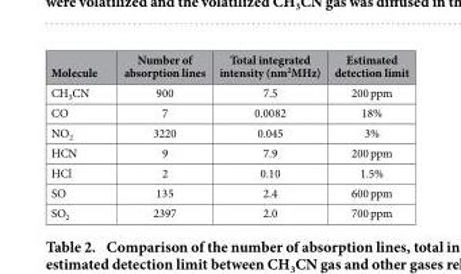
<table><thead><tr><td>Molecule</td><td>Number of absorption lines</td><td>Total integrated intensity (nm<sup>2</sup>MHz)</td><td>Estimated detection limit</td></tr></thead><tbody><tr><td>CH<sub>3</sub>CN</td><td>900</td><td>7.5</td><td>200 ppm</td></tr><tr><td>CO</td><td>7</td><td>0.0082</td><td>18%</td></tr><tr><td>NO<sub>2</sub></td><td>3220</td><td>0.045</td><td>3%</td></tr><tr><td>HCN</td><td>9</td><td>7.9</td><td>200 ppm</td></tr><tr><td>HCl</td><td>2</td><td>0.10</td><td>1.5%</td></tr><tr><td>SO</td><td>135</td><td>2.4</td><td>600 ppm</td></tr><tr><td>SO<sub>2</sub></td><td>2397</td><td>2.0</td><td>700 ppm</td></tr></tbody></table>